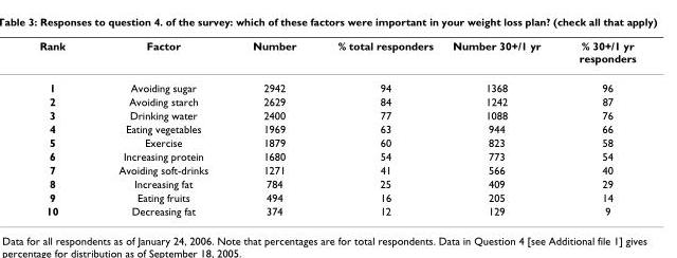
<table><thead><tr><td>Rank</td><td>Factor</td><td>Number</td><td>% total responders</td><td>Number 30+/1 yr</td><td>% 30+/1 yr responders</td></tr></thead><tbody><tr><td>1</td><td>Avoiding sugar</td><td>2942</td><td>94</td><td>1368</td><td>96</td></tr><tr><td>2</td><td>Avoiding starch</td><td>2629</td><td>84</td><td>1242</td><td>87</td></tr><tr><td>3</td><td>Drinking water</td><td>2400</td><td>77</td><td>1088</td><td>76</td></tr><tr><td>4</td><td>Eating vegetables</td><td>1969</td><td>63</td><td>944</td><td>66</td></tr><tr><td>5</td><td>Exercise</td><td>1879</td><td>60</td><td>823</td><td>58</td></tr><tr><td>6</td><td>Increasing protein</td><td>1680</td><td>54</td><td>773</td><td>54</td></tr><tr><td>7</td><td>Avoiding soft-drinks</td><td>1271</td><td>41</td><td>566</td><td>40</td></tr><tr><td>8</td><td>Increasing fat</td><td>784</td><td>25</td><td>409</td><td>29</td></tr><tr><td>9</td><td>Eating fruits</td><td>494</td><td>16</td><td>205</td><td>14</td></tr><tr><td>10</td><td>Decreasing fat</td><td>374</td><td>12</td><td>129</td><td>9</td></tr></tbody></table>